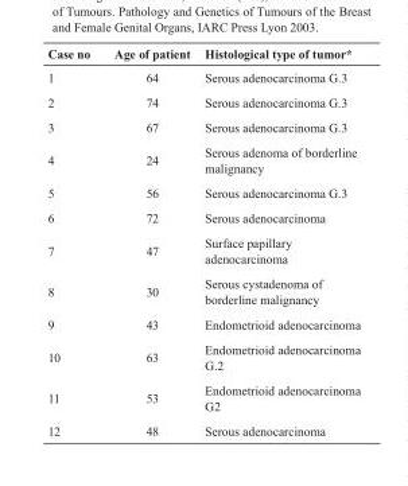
<table><thead><tr><td>Case no</td><td>Age of patient</td><td>Histological type of tumor*</td></tr></thead><tbody><tr><td>1</td><td>64</td><td>Serous adenocarcinoma G.3</td></tr><tr><td>2</td><td>74</td><td>Serous adenocarcinoma G.3</td></tr><tr><td>3</td><td>67</td><td>Serous adenocarcinoma G.3</td></tr><tr><td>4</td><td>24</td><td>Serous adenoma of borderline malignancy</td></tr><tr><td>5</td><td>56</td><td>Serous adenocarcinoma G.3</td></tr><tr><td>6</td><td>72</td><td>Serous adenocarcinoma</td></tr><tr><td>7</td><td>47</td><td>Surface papillary adenocarcinoma</td></tr><tr><td>8</td><td>30</td><td>Serous cystadenoma of borderline malignancy</td></tr><tr><td>9</td><td>43</td><td>Endometrioid adenocarcinoma</td></tr><tr><td>10</td><td>63</td><td>Endometrioid adenocarcinoma G.2</td></tr><tr><td>11</td><td>53</td><td>Endometrioid adenocarcinoma G2</td></tr><tr><td>12</td><td>48</td><td>Serous adenocarcinoma</td></tr></tbody></table>